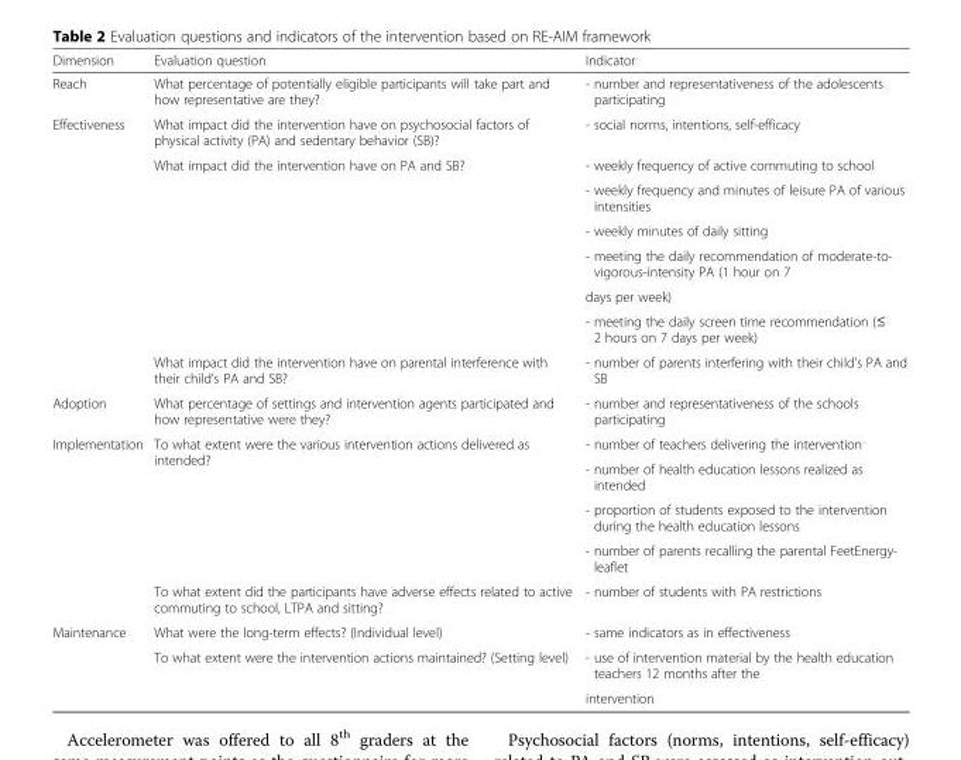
<table><thead><tr><td>Dimension</td><td>Evaluation question</td><td>Indicator</td></tr></thead><tbody><tr><td>Reach</td><td>What percentage of potentially eligible participants will take part and how representative are they?</td><td>- number and representativeness of the adolescents participating</td></tr><tr><td rowspan="8">Effectiveness</td><td>What impact did the intervention have on psychosocial factors of physical activity (PA) and sedentary behavior (SB)?</td><td>- social norms, intentions, self-efficacy</td></tr><tr><td rowspan="6">What impact did the intervention have on PA and SB?</td><td>- weekly frequency of active commuting to school</td></tr><tr><td>- weekly frequency and minutes of leisure PA of various intensities</td></tr><tr><td>- weekly minutes of daily sitting</td></tr><tr><td>- meeting the daily recommendation of moderate-to- vigorous-intensity PA (1 hour on 7</td></tr><tr><td>days per week)</td></tr><tr><td>- meeting the daily screen time recommendation (≤ 2 hours on 7 days per week)</td></tr><tr><td>What impact did the intervention have on parental interference with their child’s PA and SB?</td><td>- number of parents interfering with their child’s PA and SB</td></tr><tr><td>Adoption</td><td>What percentage of settings and intervention agents participated and how representative were they?</td><td>- number and representativeness of the schools participating</td></tr><tr><td rowspan="5">Implementation</td><td rowspan="4">To what extent were the various intervention actions delivered as intended?</td><td>- number of teachers delivering the intervention</td></tr><tr><td>- number of health education lessons realized as intended</td></tr><tr><td>- proportion of students exposed to the intervention during the health education lessons</td></tr><tr><td>- number of parents recalling the parental FeetEnergy- leaflet</td></tr><tr><td>To what extent did the participants have adverse effects related to active commuting to school, LTPA and sitting?</td><td>- number of students with PA restrictions</td></tr><tr><td rowspan="3">Maintenance</td><td>What were the long-term effects? (Individual level)</td><td>- same indicators as in effectiveness</td></tr><tr><td rowspan="2">To what extent were the intervention actions maintained? (Setting level)</td><td>- use of intervention material by the health education teachers 12 months after the</td></tr><tr><td>intervention</td></tr></tbody></table>